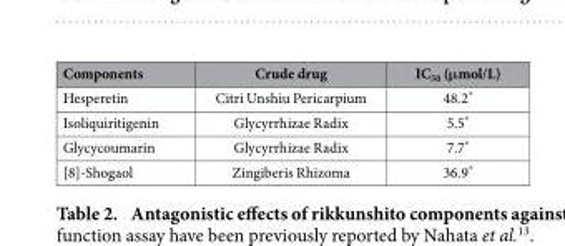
<table><thead><tr><td>Components</td><td>Crude drug</td><td>IC<sub>50</sub> (μmol/L)</td></tr></thead><tbody><tr><td>Hesperetin</td><td>Citri Unshiu Pericarpium</td><td>48.2*</td></tr><tr><td>Isoliquiritigenin</td><td>Glycyrrhizae Radix</td><td>5.5*</td></tr><tr><td>Glycycoumarin</td><td>Glycyrrhizae Radix</td><td>7.7*</td></tr><tr><td>[8]-Shogaol</td><td>Zingiberis Rhizoma</td><td>36.9*</td></tr></tbody></table>